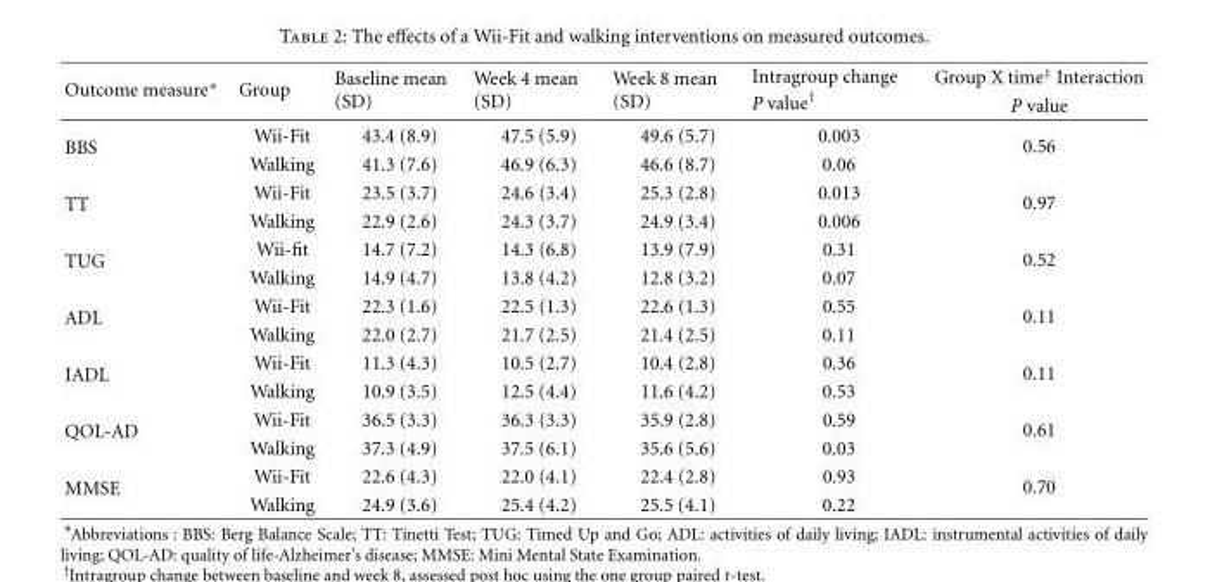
<table><thead><tr><td rowspan="2">Outcome measure∗</td><td rowspan="2">Group</td><td rowspan="2">Baseline mean (SD)</td><td rowspan="2">Week 4 mean (SD)</td><td rowspan="2">Week 8 mean (SD)</td><td rowspan="2">Intragroup change P value<sup>†</sup></td><td rowspan="2">Group X time<sup>‡</sup> Interaction P value</td></tr><tr></tr></thead><tbody><tr><td rowspan="2">BBS</td><td>Wii-Fit</td><td>43.4 (8.9)</td><td>47.5 (5.9)</td><td>49.6 (5.7)</td><td>0.003</td><td rowspan="2">0.56</td></tr><tr><td>Walking</td><td>41.3 (7.6)</td><td>46.9 (6.3)</td><td>46.6 (8.7)</td><td>0.06</td></tr><tr><td rowspan="2">TT</td><td>Wii-Fit</td><td>23.5 (3.7)</td><td>24.6 (3.4)</td><td>25.3 (2.8)</td><td>0.013</td><td rowspan="2">0.97</td></tr><tr><td>Walking</td><td>22.9 (2.6)</td><td>24.3 (3.7)</td><td>24.9 (3.4)</td><td>0.006</td></tr><tr><td rowspan="2">TUG</td><td>Wii-fit</td><td>14.7 (7.2)</td><td>14.3 (6.8)</td><td>13.9 (7.9)</td><td>0.31</td><td rowspan="2">0.52</td></tr><tr><td>Walking</td><td>14.9 (4.7)</td><td>13.8 (4.2)</td><td>12.8 (3.2)</td><td>0.07</td></tr><tr><td rowspan="2">ADL</td><td>Wii-Fit</td><td>22.3 (1.6)</td><td>22.5 (1.3)</td><td>22.6 (1.3)</td><td>0.55</td><td rowspan="2">0.11</td></tr><tr><td>Walking</td><td>22.0 (2.7)</td><td>21.7 (2.5)</td><td>21.4 (2.5)</td><td>0.11</td></tr><tr><td rowspan="2">IADL</td><td>Wii-Fit</td><td>11.3 (4.3)</td><td>10.5 (2.7)</td><td>10.4 (2.8)</td><td>0.36</td><td rowspan="2">0.11</td></tr><tr><td>Walking</td><td>10.9 (3.5)</td><td>12.5 (4.4)</td><td>11.6 (4.2)</td><td>0.53</td></tr><tr><td rowspan="2">QOL-AD</td><td>Wii-Fit</td><td>36.5 (3.3)</td><td>36.3 (3.3)</td><td>35.9 (2.8)</td><td>0.59</td><td rowspan="2">0.61</td></tr><tr><td>Walking</td><td>37.3 (4.9)</td><td>37.5 (6.1)</td><td>35.6 (5.6)</td><td>0.03</td></tr><tr><td rowspan="2">MMSE</td><td>Wii-Fit</td><td>22.6 (4.3)</td><td>22.0 (4.1)</td><td>22.4 (2.8)</td><td>0.93</td><td rowspan="2">0.70</td></tr><tr><td>Walking</td><td>24.9 (3.6)</td><td>25.4 (4.2)</td><td>25.5 (4.1)</td><td>0.22</td></tr></tbody></table>